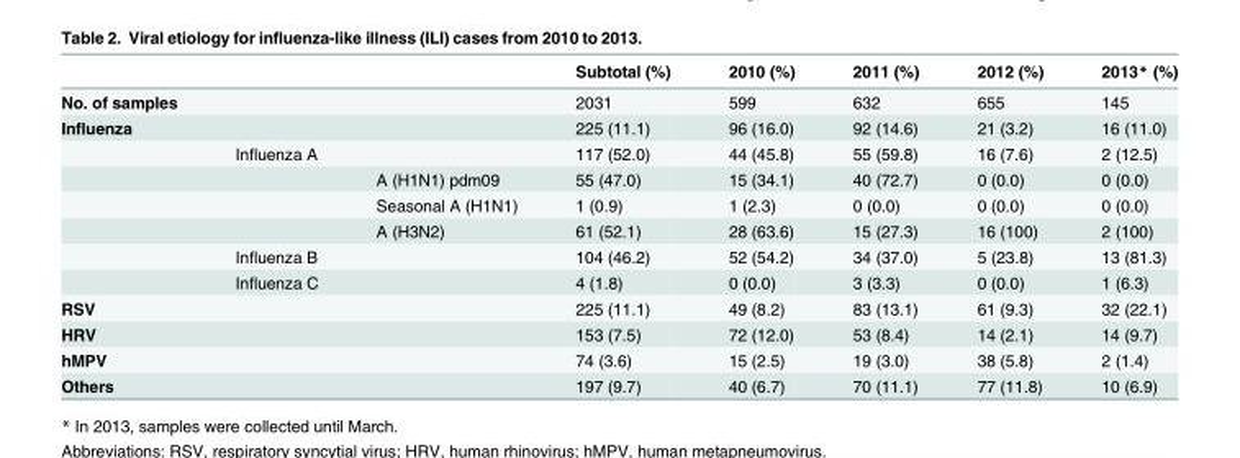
<table><thead><tr><td></td><td></td><td></td><td>Subtotal (%)</td><td>2010 (%)</td><td>2011 (%)</td><td>2012 (%)</td><td>2013* (%)</td></tr></thead><tbody><tr><td>No. of samples</td><td></td><td></td><td>2031</td><td>599</td><td>632</td><td>655</td><td>145</td></tr><tr><td rowspan="7">Influenza</td><td></td><td></td><td>225 (11.1)</td><td>96 (16.0)</td><td>92 (14.6)</td><td>21 (3.2)</td><td>16 (11.0)</td></tr><tr><td>Influenza A</td><td></td><td>117 (52.0)</td><td>44 (45.8)</td><td>55 (59.8)</td><td>16 (7.6)</td><td>2 (12.5)</td></tr><tr><td></td><td>A (H1N1) pdm09</td><td>55 (47.0)</td><td>15 (34.1)</td><td>40 (72.7)</td><td>0 (0.0)</td><td>0 (0.0)</td></tr><tr><td></td><td>Seasonal A (H1N1)</td><td>1 (0.9)</td><td>1 (2.3)</td><td>0 (0.0)</td><td>0 (0.0)</td><td>0 (0.0)</td></tr><tr><td></td><td>A (H3N2)</td><td>61 (52.1)</td><td>28 (63.6)</td><td>15 (27.3)</td><td>16 (100)</td><td>2 (100)</td></tr><tr><td>Influenza B</td><td></td><td>104 (46.2)</td><td>52 (54.2)</td><td>34 (37.0)</td><td>5 (23.8)</td><td>13 (81.3)</td></tr><tr><td>Influenza C</td><td></td><td>4 (1.8)</td><td>0 (0.0)</td><td>3 (3.3)</td><td>0 (0.0)</td><td>1 (6.3)</td></tr><tr><td>RSV</td><td></td><td></td><td>225 (11.1)</td><td>49 (8.2)</td><td>83 (13.1)</td><td>61 (9.3)</td><td>32 (22.1)</td></tr><tr><td>HRV</td><td></td><td></td><td>153 (7.5)</td><td>72 (12.0)</td><td>53 (8.4)</td><td>14 (2.1)</td><td>14 (9.7)</td></tr><tr><td>hMPV</td><td></td><td></td><td>74 (3.6)</td><td>15 (2.5)</td><td>19 (3.0)</td><td>38 (5.8)</td><td>2 (1.4)</td></tr><tr><td>Others</td><td></td><td></td><td>197 (9.7)</td><td>40 (6.7)</td><td>70 (11.1)</td><td>77 (11.8)</td><td>10 (6.9)</td></tr></tbody></table>